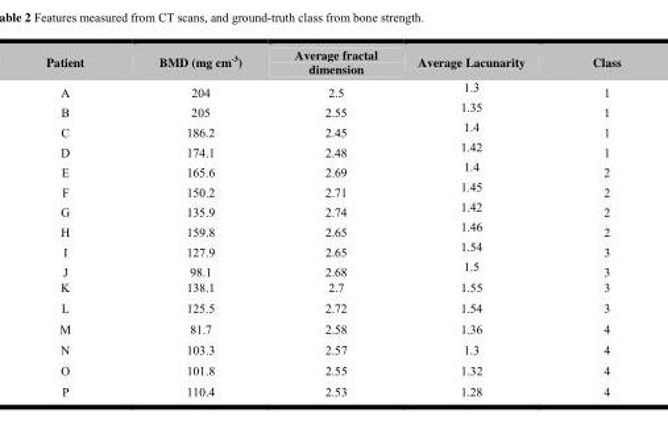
<table><thead><tr><td>Patient</td><td>BMD (mg cm<sup>-3</sup>)</td><td>Average fractal dimension</td><td>Average Lacunarity</td><td>Class</td></tr></thead><tbody><tr><td>A</td><td>204</td><td>2.5</td><td>1.3</td><td>1</td></tr><tr><td>B</td><td>205</td><td>2.55</td><td>1.35</td><td>1</td></tr><tr><td>C</td><td>186.2</td><td>2.45</td><td>1.4</td><td>1</td></tr><tr><td>D</td><td>174.1</td><td>2.48</td><td>1.42</td><td>1</td></tr><tr><td>E</td><td>165.6</td><td>2.69</td><td>1.4</td><td>2</td></tr><tr><td>F</td><td>150.2</td><td>2.71</td><td>1.45</td><td>2</td></tr><tr><td>G</td><td>135.9</td><td>2.74</td><td>1.42</td><td>2</td></tr><tr><td>H</td><td>159.8</td><td>2.65</td><td>1.46</td><td>2</td></tr><tr><td>I</td><td>127.9</td><td>2.65</td><td>1.54</td><td>3</td></tr><tr><td>J</td><td>98.1</td><td>2.68</td><td>1.5</td><td>3</td></tr><tr><td>K</td><td>138.1</td><td>2.7</td><td>1.55</td><td>3</td></tr><tr><td>L</td><td>125.5</td><td>2.72</td><td>1.54</td><td>3</td></tr><tr><td>M</td><td>81.7</td><td>2.58</td><td>1.36</td><td>4</td></tr><tr><td>N</td><td>103.3</td><td>2.57</td><td>1.3</td><td>4</td></tr><tr><td>O</td><td>101.8</td><td>2.55</td><td>1.32</td><td>4</td></tr><tr><td>P</td><td>110.4</td><td>2.53</td><td>1.28</td><td>4</td></tr></tbody></table>